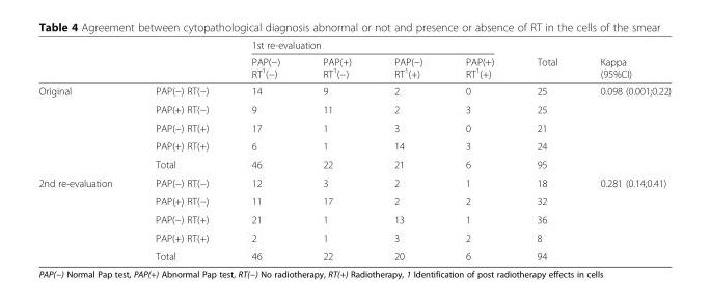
<table><thead><tr><td rowspan="2"></td><td rowspan="2"></td><td colspan="4">1st re-evaluation</td><td rowspan="2">Total</td><td rowspan="2">Kappa (95%CI)</td></tr><tr><td>PAP(−) RT<sup>1</sup>(−)</td><td>PAP(+) RT<sup>1</sup>(−)</td><td>PAP(−) RT<sup>1</sup>(+)</td><td>PAP(+) RT<sup>1</sup>(+)</td></tr></thead><tbody><tr><td rowspan="5">Original</td><td>PAP(−) RT(−)</td><td>14</td><td>9</td><td>2</td><td>0</td><td>25</td><td rowspan="5">0.098 (0.001;0.22)</td></tr><tr><td>PAP(+) RT(−)</td><td>9</td><td>11</td><td>2</td><td>3</td><td>25</td></tr><tr><td>PAP(−) RT(+)</td><td>17</td><td>1</td><td>3</td><td>0</td><td>21</td></tr><tr><td>PAP(+) RT(+)</td><td>6</td><td>1</td><td>14</td><td>3</td><td>24</td></tr><tr><td>Total</td><td>46</td><td>22</td><td>21</td><td>6</td><td>95</td></tr><tr><td rowspan="5">2nd re-evaluation</td><td>PAP(−) RT(−)</td><td>12</td><td>3</td><td>2</td><td>1</td><td>18</td><td rowspan="5">0.281 (0.14;0.41)</td></tr><tr><td>PAP(+) RT(−)</td><td>11</td><td>17</td><td>2</td><td>2</td><td>32</td></tr><tr><td>PAP(−) RT(+)</td><td>21</td><td>1</td><td>13</td><td>1</td><td>36</td></tr><tr><td>PAP(+) RT(+)</td><td>2</td><td>1</td><td>3</td><td>2</td><td>8</td></tr><tr><td>Total</td><td>46</td><td>22</td><td>20</td><td>6</td><td>94</td></tr></tbody></table>